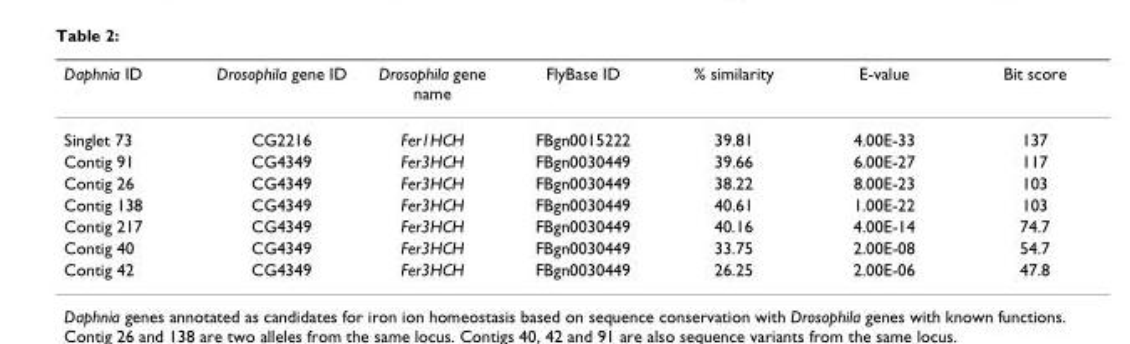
<table><thead><tr><td>Daphnia ID</td><td>Drosophila gene ID</td><td>Drosophila gene name</td><td>FlyBase ID</td><td>% similarity</td><td>E-value</td><td>Bit score</td></tr></thead><tbody><tr><td>Singlet 73</td><td>CG2216</td><td>Fer1HCH</td><td>FBgn0015222</td><td>39.81</td><td>4.00E-33</td><td>137</td></tr><tr><td>Contig 91</td><td>CG4349</td><td>Fer3HCH</td><td>FBgn0030449</td><td>39.66</td><td>6.00E-27</td><td>117</td></tr><tr><td>Contig 26</td><td>CG4349</td><td>Fer3HCH</td><td>FBgn0030449</td><td>38.22</td><td>8.00E-23</td><td>103</td></tr><tr><td>Contig 138</td><td>CG4349</td><td>Fer3HCH</td><td>FBgn0030449</td><td>40.61</td><td>1.00E-22</td><td>103</td></tr><tr><td>Contig 217</td><td>CG4349</td><td>Fer3HCH</td><td>FBgn0030449</td><td>40.16</td><td>4.00E-14</td><td>74.7</td></tr><tr><td>Contig 40</td><td>CG4349</td><td>Fer3HCH</td><td>FBgn0030449</td><td>33.75</td><td>2.00E-08</td><td>54.7</td></tr><tr><td>Contig 42</td><td>CG4349</td><td>Fer3HCH</td><td>FBgn0030449</td><td>26.25</td><td>2.00E-06</td><td>47.8</td></tr></tbody></table>